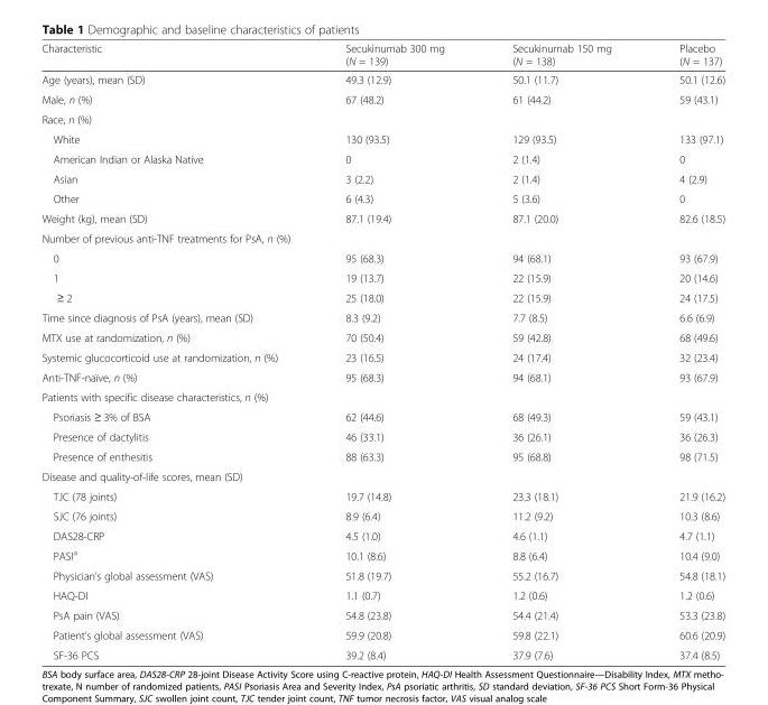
<table><thead><tr><td>Characteristic</td><td>Secukinumab 300 mg (N = 139)</td><td>Secukinumab 150 mg (N = 138)</td><td>Placebo (N = 137)</td></tr></thead><tbody><tr><td>Age (years), mean (SD)</td><td>49.3 (12.9)</td><td>50.1 (11.7)</td><td>50.1 (12.6)</td></tr><tr><td>Male, n (%)</td><td>67 (48.2)</td><td>61 (44.2)</td><td>59 (43.1)</td></tr><tr><td colspan="4">Race, n (%)</td></tr><tr><td>White</td><td>130 (93.5)</td><td>129 (93.5)</td><td>133 (97.1)</td></tr><tr><td>American Indian or Alaska Native</td><td>0</td><td>2 (1.4)</td><td>0</td></tr><tr><td>Asian</td><td>3 (2.2)</td><td>2 (1.4)</td><td>4 (2.9)</td></tr><tr><td>Other</td><td>6 (4.3)</td><td>5 (3.6)</td><td>0</td></tr><tr><td>Weight (kg), mean (SD)</td><td>87.1 (19.4)</td><td>87.1 (20.0)</td><td>82.6 (18.5)</td></tr><tr><td colspan="4">Number of previous anti-TNF treatments for PsA, n (%)</td></tr><tr><td>0</td><td>95 (68.3)</td><td>94 (68.1)</td><td>93 (67.9)</td></tr><tr><td>1</td><td>19 (13.7)</td><td>22 (15.9)</td><td>20 (14.6)</td></tr><tr><td>≥ 2</td><td>25 (18.0)</td><td>22 (15.9)</td><td>24 (17.5)</td></tr><tr><td>Time since diagnosis of PsA (years), mean (SD)</td><td>8.3 (9.2)</td><td>7.7 (8.5)</td><td>6.6 (6.9)</td></tr><tr><td>MTX use at randomization, n (%)</td><td>70 (50.4)</td><td>59 (42.8)</td><td>68 (49.6)</td></tr><tr><td>Systemic glucocorticoid use at randomization, n (%)</td><td>23 (16.5)</td><td>24 (17.4)</td><td>32 (23.4)</td></tr><tr><td>Anti-TNF-naïve, n (%)</td><td>95 (68.3)</td><td>94 (68.1)</td><td>93 (67.9)</td></tr><tr><td colspan="4">Patients with specific disease characteristics, n (%)</td></tr><tr><td>Psoriasis ≥ 3% of BSA</td><td>62 (44.6)</td><td>68 (49.3)</td><td>59 (43.1)</td></tr><tr><td>Presence of dactylitis</td><td>46 (33.1)</td><td>36 (26.1)</td><td>36 (26.3)</td></tr><tr><td>Presence of enthesitis</td><td>88 (63.3)</td><td>95 (68.8)</td><td>98 (71.5)</td></tr><tr><td colspan="4">Disease and quality-of-life scores, mean (SD)</td></tr><tr><td>TJC (78 joints)</td><td>19.7 (14.8)</td><td>23.3 (18.1)</td><td>21.9 (16.2)</td></tr><tr><td>SJC (76 joints)</td><td>8.9 (6.4)</td><td>11.2 (9.2)</td><td>10.3 (8.6)</td></tr><tr><td>DAS28-CRP</td><td>4.5 (1.0)</td><td>4.6 (1.1)</td><td>4.7 (1.1)</td></tr><tr><td>PASI<sup>a</sup></td><td>10.1 (8.6)</td><td>8.8 (6.4)</td><td>10.4 (9.0)</td></tr><tr><td>Physician’s global assessment (VAS)</td><td>51.8 (19.7)</td><td>55.2 (16.7)</td><td>54.8 (18.1)</td></tr><tr><td>HAQ-DI</td><td>1.1 (0.7)</td><td>1.2 (0.6)</td><td>1.2 (0.6)</td></tr><tr><td>PsA pain (VAS)</td><td>54.8 (23.8)</td><td>54.4 (21.4)</td><td>53.3 (23.8)</td></tr><tr><td>Patient’s global assessment (VAS)</td><td>59.9 (20.8)</td><td>59.8 (22.1)</td><td>60.6 (20.9)</td></tr><tr><td>SF-36 PCS</td><td>39.2 (8.4)</td><td>37.9 (7.6)</td><td>37.4 (8.5)</td></tr></tbody></table>